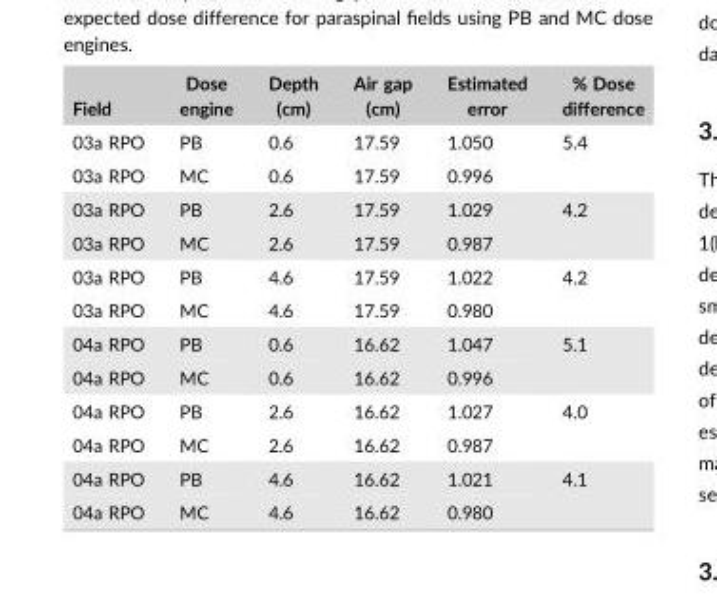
<table><thead><tr><td>Field</td><td>Dose engine</td><td>Depth (cm)</td><td>Air gap (cm)</td><td>Estimated error</td><td>% Dose difference</td></tr></thead><tbody><tr><td>03a RPO</td><td>PB</td><td>0.6</td><td>17.59</td><td>1.050</td><td rowspan="2">5.4</td></tr><tr><td>03a RPO</td><td>MC</td><td>0.6</td><td>17.59</td><td>0.996</td></tr><tr><td>03a RPO</td><td>PB</td><td>2.6</td><td>17.59</td><td>1.029</td><td rowspan="2">4.2</td></tr><tr><td>03a RPO</td><td>MC</td><td>2.6</td><td>17.59</td><td>0.987</td></tr><tr><td>03a RPO</td><td>PB</td><td>4.6</td><td>17.59</td><td>1.022</td><td rowspan="2">4.2</td></tr><tr><td>03a RPO</td><td>MC</td><td>4.6</td><td>17.59</td><td>0.980</td></tr><tr><td>04a RPO</td><td>PB</td><td>0.6</td><td>16.62</td><td>1.047</td><td rowspan="2">5.1</td></tr><tr><td>04a RPO</td><td>MC</td><td>0.6</td><td>16.62</td><td>0.996</td></tr><tr><td>04a RPO</td><td>PB</td><td>2.6</td><td>16.62</td><td>1.027</td><td rowspan="2">4.0</td></tr><tr><td>04a RPO</td><td>MC</td><td>2.6</td><td>16.62</td><td>0.987</td></tr><tr><td>04a RPO</td><td>PB</td><td>4.6</td><td>16.62</td><td>1.021</td><td rowspan="2">4.1</td></tr><tr><td>04a RPO</td><td>MC</td><td>4.6</td><td>16.62</td><td>0.980</td></tr></tbody></table>